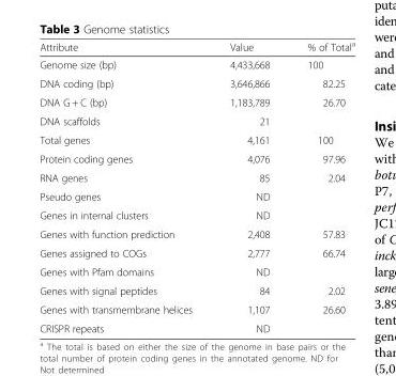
<table><thead><tr><td>Attribute</td><td>Value</td><td>% of Total<sup>a</sup></td></tr></thead><tbody><tr><td>Genome size (bp)</td><td>4,433,668</td><td>100</td></tr><tr><td>DNA coding (bp)</td><td>3,646,866</td><td>82.25</td></tr><tr><td>DNA G + C (bp)</td><td>1,183,789</td><td>26.70</td></tr><tr><td>DNA scaffolds</td><td>21</td><td></td></tr><tr><td>Total genes</td><td>4,161</td><td>100</td></tr><tr><td>Protein coding genes</td><td>4,076</td><td>97.96</td></tr><tr><td>RNA genes</td><td>85</td><td>2.04</td></tr><tr><td>Pseudo genes</td><td>ND</td><td></td></tr><tr><td>Genes in internal clusters</td><td>ND</td><td></td></tr><tr><td>Genes with function prediction</td><td>2,408</td><td>57.83</td></tr><tr><td>Genes assigned to COGs</td><td>2,777</td><td>66.74</td></tr><tr><td>Genes with Pfam domains</td><td>ND</td><td></td></tr><tr><td>Genes with signal peptides</td><td>84</td><td>2.02</td></tr><tr><td>Genes with transmembrane helices</td><td>1,107</td><td>26.60</td></tr><tr><td>CRISPR repeats</td><td>ND</td><td></td></tr></tbody></table>